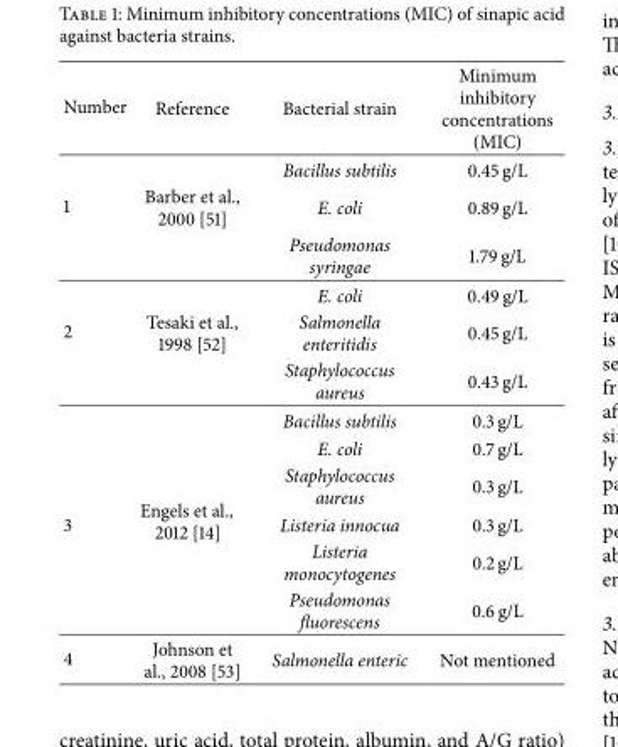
<table><thead><tr><td>Number</td><td>Reference</td><td>Bacterial strain</td><td>Minimum inhibitory concentrations (MIC)</td></tr></thead><tbody><tr><td></td><td></td><td>Bacillus subtilis</td><td>0.45 g/L</td></tr><tr><td rowspan="3">1</td><td>Barber et al., 2000 [51]</td><td>E. coli</td><td>0.89 g/L</td></tr><tr><td></td><td>Pseudomonas syringae</td><td>1.79 g/L</td></tr><tr><td></td><td>E. coli</td><td>0.49 g/L</td></tr><tr><td rowspan="2">2</td><td>Tesaki et al., 1998 [52]</td><td>Salmonella enteritidis</td><td>0.45 g/L</td></tr><tr><td></td><td>Staphylococcus aureus</td><td>0.43 g/L</td></tr><tr><td rowspan="6">3</td><td rowspan="6">Engels et al., 2012 [14]</td><td>Bacillus subtilis</td><td>0.3 g/L</td></tr><tr><td>E. coli</td><td>0.7 g/L</td></tr><tr><td>Staphylococcus aureus</td><td>0.3 g/L</td></tr><tr><td>Listeria innocua</td><td>0.3 g/L</td></tr><tr><td>Listeria monocytogenes</td><td>0.2 g/L</td></tr><tr><td>Pseudomonas fluorescens</td><td>0.6 g/L</td></tr><tr><td>4</td><td>Johnson et al., 2008 [53]</td><td>Salmonella enteric</td><td>Not mentioned</td></tr></tbody></table>